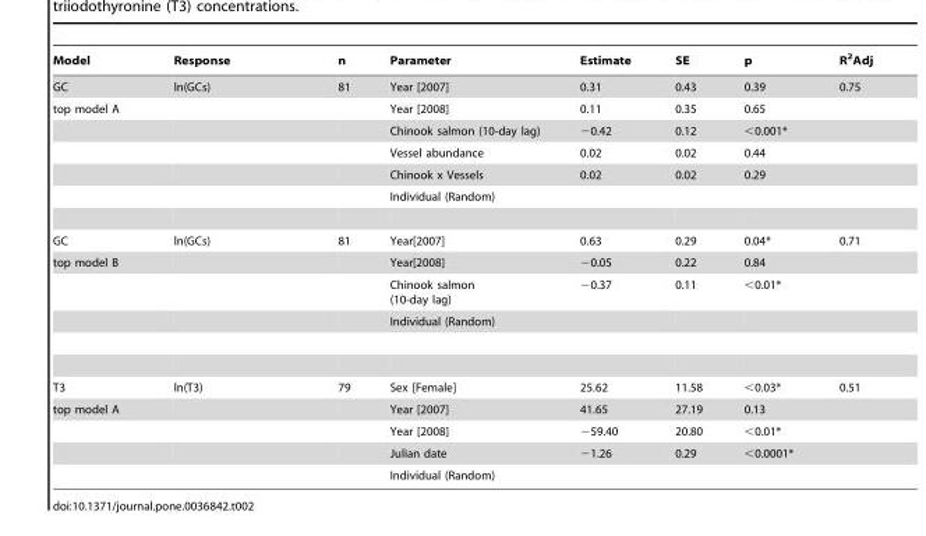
<table><thead><tr><td>Model</td><td>Response</td><td>n</td><td>Parameter</td><td>Estimate</td><td>SE</td><td>p</td><td>R<sup>2</sup>Adj</td></tr></thead><tbody><tr><td>GC</td><td>ln(GCs)</td><td>81</td><td>Year [2007]</td><td>0.31</td><td>0.43</td><td>0.39</td><td>0.75</td></tr><tr><td rowspan="5">top model A</td><td></td><td></td><td>Year [2008]</td><td>0.11</td><td>0.35</td><td>0.65</td><td></td></tr><tr><td></td><td></td><td>Chinook salmon (10-day lag)</td><td>−0.42</td><td>0.12</td><td>&lt;0.001*</td><td></td></tr><tr><td></td><td></td><td>Vessel abundance</td><td>0.02</td><td>0.02</td><td>0.44</td><td></td></tr><tr><td></td><td></td><td>Chinook x Vessels</td><td>0.02</td><td>0.02</td><td>0.29</td><td></td></tr><tr><td></td><td></td><td>Individual (Random)</td><td></td><td></td><td></td><td></td></tr><tr><td>GC</td><td>ln(GCs)</td><td>81</td><td>Year[2007]</td><td>0.63</td><td>0.29</td><td>0.04*</td><td>0.71</td></tr><tr><td rowspan="3">top model B</td><td></td><td></td><td>Year[2008]</td><td>−0.05</td><td>0.22</td><td>0.84</td><td></td></tr><tr><td></td><td></td><td>Chinook salmon (10-day lag)</td><td>−0.37</td><td>0.11</td><td>&lt;0.01*</td><td></td></tr><tr><td></td><td></td><td>Individual (Random)</td><td></td><td></td><td></td><td></td></tr><tr><td>T3</td><td>ln(T3)</td><td>79</td><td>Sex [Female]</td><td>25.62</td><td>11.58</td><td>&lt;0.03*</td><td>0.51</td></tr><tr><td rowspan="4">top model A</td><td></td><td></td><td>Year [2007]</td><td>41.65</td><td>27.19</td><td>0.13</td><td></td></tr><tr><td></td><td></td><td>Year [2008]</td><td>−59.40</td><td>20.80</td><td>&lt;0.01*</td><td></td></tr><tr><td></td><td></td><td>Julian date</td><td>−1.26</td><td>0.29</td><td>&lt;0.0001*</td><td></td></tr><tr><td></td><td></td><td>Individual (Random)</td><td></td><td></td><td></td><td></td></tr></tbody></table>